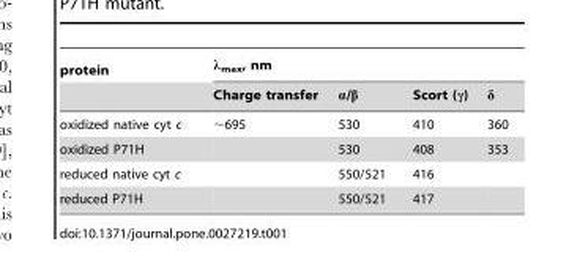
<table><thead><tr><td rowspan="2">protein</td><td colspan="4">λ<sub>max</sub>, nm</td></tr><tr><td>Charge transfer</td><td>α/β</td><td>Scort (γ)</td><td>δ</td></tr></thead><tbody><tr><td>oxidized native cyt c</td><td>∼695</td><td>530</td><td>410</td><td>360</td></tr><tr><td>oxidized P71H</td><td></td><td>530</td><td>408</td><td>353</td></tr><tr><td>reduced native cyt c</td><td></td><td>550/521</td><td>416</td><td></td></tr><tr><td>reduced P71H</td><td></td><td>550/521</td><td>417</td><td></td></tr></tbody></table>